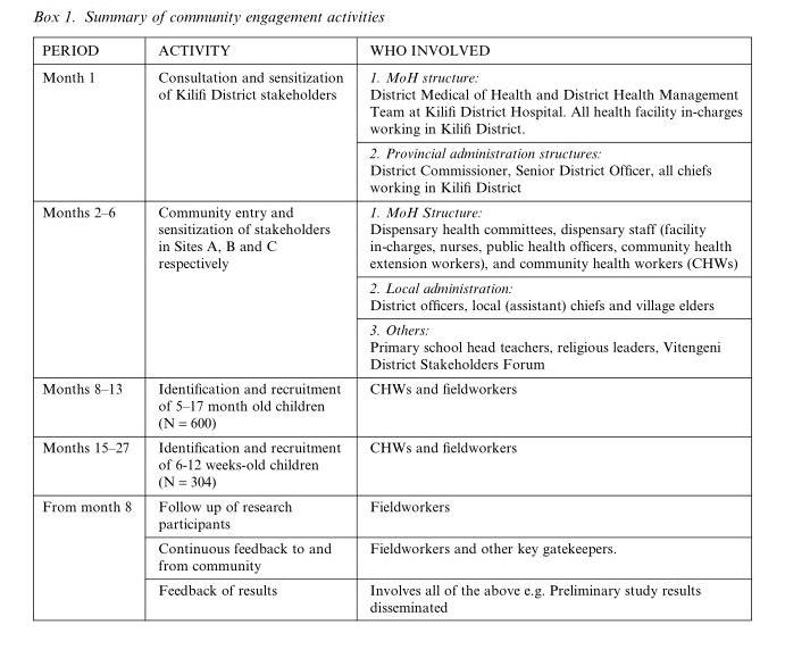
<table><thead><tr><td>PERIOD</td><td>ACTIVITY</td><td>WHO INVOLVED</td></tr></thead><tbody><tr><td rowspan="2">Month 1</td><td>Consultation and sensitization of Kilifi District stakeholders</td><td>1. MoH structure: District Medical of Health and District Health Management Team at Kilifi District Hospital. All health facility in-charges working in Kilifi District.</td></tr><tr><td></td><td>2. Provincial administration structures: District Commissioner, Senior District Officer, all chiefs working in Kilifi District</td></tr><tr><td rowspan="3">Months 2–6</td><td>Community entry and sensitization of stakeholders in Sites A, B and C respectively</td><td>1. MoH Structure: Dispensary health committees, dispensary staff (facility in-charges, nurses, public health officers, community health extension workers), and community health workers (CHWs)</td></tr><tr><td></td><td>2. Local administration: District officers, local (assistant) chiefs and village elders</td></tr><tr><td></td><td>3. Others: Primary school head teachers, religious leaders, Vitengeni District Stakeholders Forum</td></tr><tr><td>Months 8–13</td><td>Identification and recruitment of 5–17 month old children (N = 600)</td><td>CHWs and fieldworkers</td></tr><tr><td>Months 15–27</td><td>Identification and recruitment of 6-12 weeks-old children (N = 304)</td><td>CHWs and fieldworkers</td></tr><tr><td rowspan="3">From month 8</td><td>Follow up of research participants</td><td>Fieldworkers</td></tr><tr><td>Continuous feedback to and from community</td><td>Fieldworkers and other key gatekeepers.</td></tr><tr><td>Feedback of results</td><td>Involves all of the above e.g. Preliminary study results disseminated</td></tr></tbody></table>